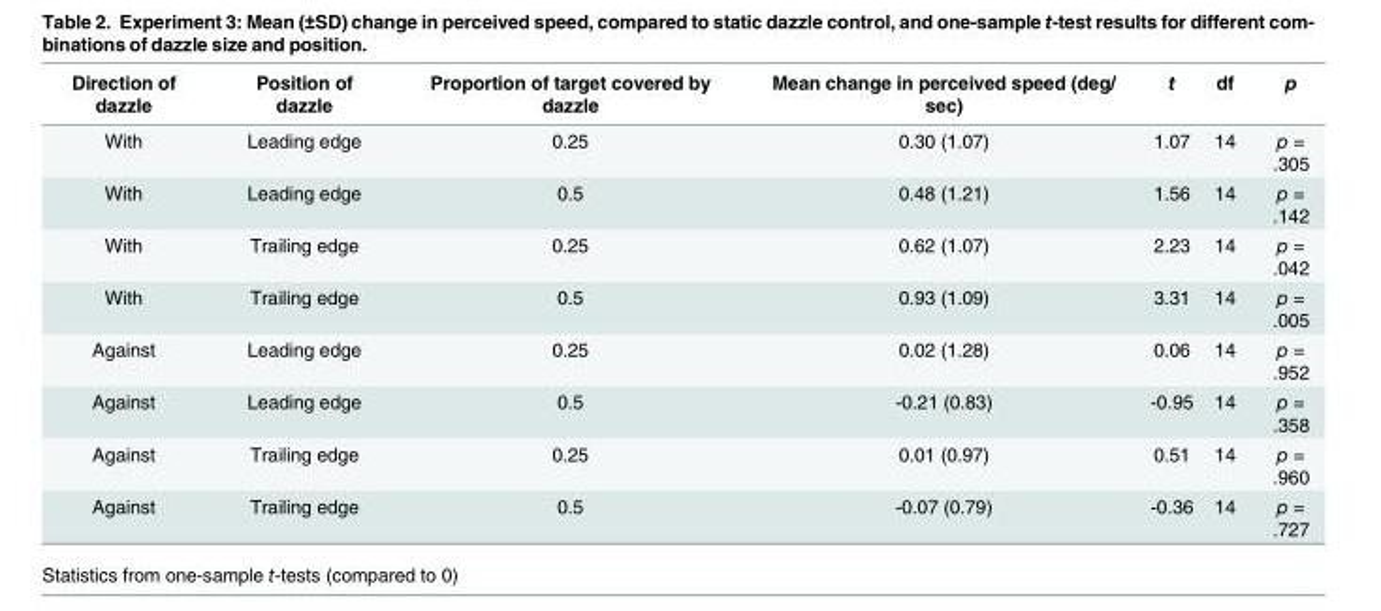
<table><thead><tr><td>Direction of dazzle</td><td>Position of dazzle</td><td>Proportion of target covered by dazzle</td><td>Mean change in perceived speed (deg/ sec)</td><td>t</td><td>df</td><td>p</td></tr></thead><tbody><tr><td>With</td><td>Leading edge</td><td>0.25</td><td>0.30 (1.07)</td><td>1.07</td><td>14</td><td>p = .305</td></tr><tr><td>With</td><td>Leading edge</td><td>0.5</td><td>0.48 (1.21)</td><td>1.56</td><td>14</td><td>p = .142</td></tr><tr><td>With</td><td>Trailing edge</td><td>0.25</td><td>0.62 (1.07)</td><td>2.23</td><td>14</td><td>p = .042</td></tr><tr><td>With</td><td>Trailing edge</td><td>0.5</td><td>0.93 (1.09)</td><td>3.31</td><td>14</td><td>p = .005</td></tr><tr><td>Against</td><td>Leading edge</td><td>0.25</td><td>0.02 (1.28)</td><td>0.06</td><td>14</td><td>p = .952</td></tr><tr><td>Against</td><td>Leading edge</td><td>0.5</td><td>-0.21 (0.83)</td><td>-0.95</td><td>14</td><td>p = .358</td></tr><tr><td>Against</td><td>Trailing edge</td><td>0.25</td><td>0.01 (0.97)</td><td>0.51</td><td>14</td><td>p = .960</td></tr><tr><td>Against</td><td>Trailing edge</td><td>0.5</td><td>-0.07 (0.79)</td><td>-0.36</td><td>14</td><td>p = .727</td></tr></tbody></table>